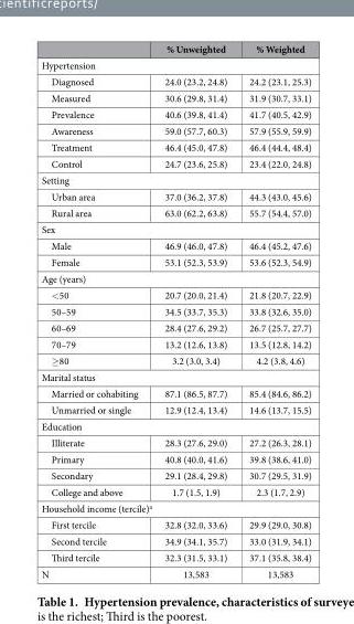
<table><thead><tr><td></td><td>% Unweighted</td><td>% Weighted</td></tr></thead><tbody><tr><td colspan="3">Hypertension</td></tr><tr><td>Diagnosed</td><td>24.0 (23.2, 24.8)</td><td>24.2 (23.1, 25.3)</td></tr><tr><td>Measured</td><td>30.6 (29.8, 31.4)</td><td>31.9 (30.7, 33.1)</td></tr><tr><td>Prevalence</td><td>40.6 (39.8, 41.4)</td><td>41.7 (40.5, 42.9)</td></tr><tr><td>Awareness</td><td>59.0 (57.7, 60.3)</td><td>57.9 (55.9, 59.9)</td></tr><tr><td>Treatment</td><td>46.4 (45.0, 47.8)</td><td>46.4 (44.4, 48.4)</td></tr><tr><td>Control</td><td>24.7 (23.6, 25.8)</td><td>23.4 (22.0, 24.8)</td></tr><tr><td colspan="3">Setting</td></tr><tr><td>Urban area</td><td>37.0 (36.2, 37.8)</td><td>44.3 (43.0, 45.6)</td></tr><tr><td>Rural area</td><td>63.0 (62.2, 63.8)</td><td>55.7 (54.4, 57.0)</td></tr><tr><td colspan="3">Sex</td></tr><tr><td>Male</td><td>46.9 (46.0, 47.8)</td><td>46.4 (45.2, 47.6)</td></tr><tr><td>Female</td><td>53.1 (52.3, 53.9)</td><td>53.6 (52.3, 54.9)</td></tr><tr><td colspan="3">Age (years)</td></tr><tr><td>&lt; 50</td><td>20.7 (20.0, 21.4)</td><td>21.8 (20.7, 22.9)</td></tr><tr><td>50–59</td><td>34.5 (33.7, 35.3)</td><td>33.8 (32.6, 35.0)</td></tr><tr><td>60–69</td><td>28.4 (27.6, 29.2)</td><td>26.7 (25.7, 27.7)</td></tr><tr><td>70–79</td><td>13.2 (12.6, 13.8)</td><td>13.5 (12.8, 14.2)</td></tr><tr><td>≥ 80</td><td>3.2 (3.0, 3.4)</td><td>4.2 (3.8, 4.6)</td></tr><tr><td colspan="3">Marital status</td></tr><tr><td>Married or cohabiting</td><td>87.1 (86.5, 87.7)</td><td>85.4 (84.6, 86.2)</td></tr><tr><td>Unmarried or single</td><td>12.9 (12.4, 13.4)</td><td>14.6 (13.7, 15.5)</td></tr><tr><td colspan="3">Education</td></tr><tr><td>Illiterate</td><td>28.3 (27.6, 29.0)</td><td>27.2 (26.3, 28.1)</td></tr><tr><td>Primary</td><td>40.8 (40.0, 41.6)</td><td>39.8 (38.6, 41.0)</td></tr><tr><td>Secondary</td><td>29.1 (28.4, 29.8)</td><td>30.7 (29.5, 31.9)</td></tr><tr><td>College and above</td><td>1.7 (1.5, 1.9)</td><td>2.3 (1.7, 2.9)</td></tr><tr><td colspan="3">Household income (tercile)<sup>a</sup></td></tr><tr><td>First tercile</td><td>32.8 (32.0, 33.6)</td><td>29.9 (29.0, 30.8)</td></tr><tr><td>Second tercile</td><td>34.9 (34.1, 35.7)</td><td>33.0 (31.9, 34.1)</td></tr><tr><td>Third tercile</td><td>32.3 (31.5, 33.1)</td><td>37.1 (35.8, 38.4)</td></tr><tr><td>N</td><td>13,583</td><td>13,583</td></tr></tbody></table>